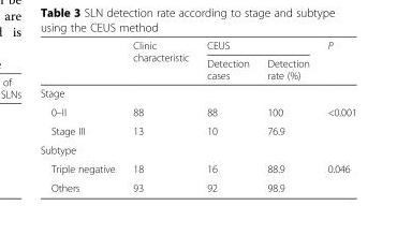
<table><thead><tr><td rowspan="2"></td><td rowspan="2">Clinic characteristic</td><td colspan="2">CEUS</td><td rowspan="2">P</td></tr><tr><td>Detection cases</td><td>Detection rate (%)</td></tr></thead><tbody><tr><td colspan="5">Stage</td></tr><tr><td>0–II</td><td>88</td><td>88</td><td>100</td><td rowspan="2">&lt;0.001</td></tr><tr><td>Stage III</td><td>13</td><td>10</td><td>76.9</td></tr><tr><td colspan="5">Subtype</td></tr><tr><td>Triple negative</td><td>18</td><td>16</td><td>88.9</td><td rowspan="2">0.046</td></tr><tr><td>Others</td><td>93</td><td>92</td><td>98.9</td></tr></tbody></table>